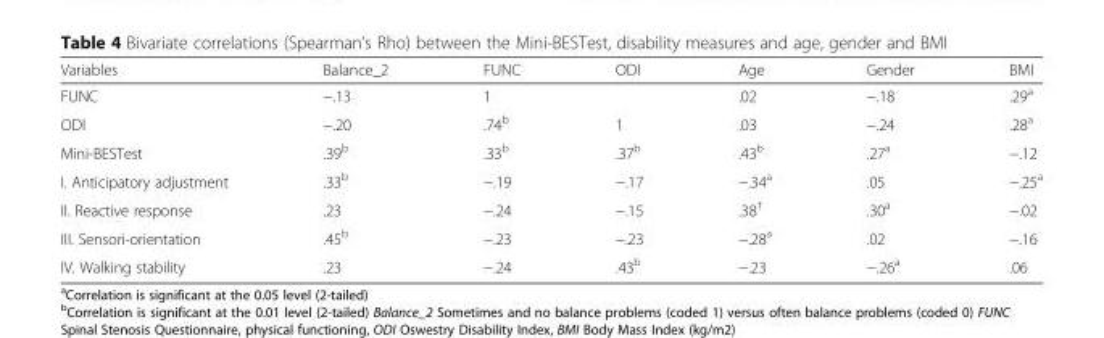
<table><thead><tr><td>Variables</td><td>Balance_2</td><td>FUNC</td><td>ODI</td><td>Age</td><td>Gender</td><td>BMI</td></tr></thead><tbody><tr><td>FUNC</td><td>−.13</td><td>1</td><td></td><td>.02</td><td>−.18</td><td>.29<sup>a</sup></td></tr><tr><td>ODI</td><td>−.20</td><td>.74<sup>b</sup></td><td>1</td><td>.03</td><td>−.24</td><td>.28<sup>a</sup></td></tr><tr><td>Mini-BESTest</td><td>.39<sup>b</sup></td><td>.33<sup>b</sup></td><td>.37<sup>b</sup></td><td>.43<sup>b</sup></td><td>.27<sup>a</sup></td><td>−.12</td></tr><tr><td>I. Anticipatory adjustment</td><td>.33<sup>b</sup></td><td>−.19</td><td>−.17</td><td>−.34<sup>a</sup></td><td>.05</td><td>−.25<sup>a</sup></td></tr><tr><td>II. Reactive response</td><td>.23</td><td>−.24</td><td>−.15</td><td>.38<sup>†</sup></td><td>.30<sup>a</sup></td><td>−.02</td></tr><tr><td>III. Sensori-orientation</td><td>.45<sup>b</sup></td><td>−.23</td><td>−.23</td><td>−.28<sup>a</sup></td><td>.02</td><td>−.16</td></tr><tr><td>IV. Walking stability</td><td>.23</td><td>−.24</td><td>.43<sup>b</sup></td><td>−.23</td><td>−.26<sup>a</sup></td><td>.06</td></tr></tbody></table>